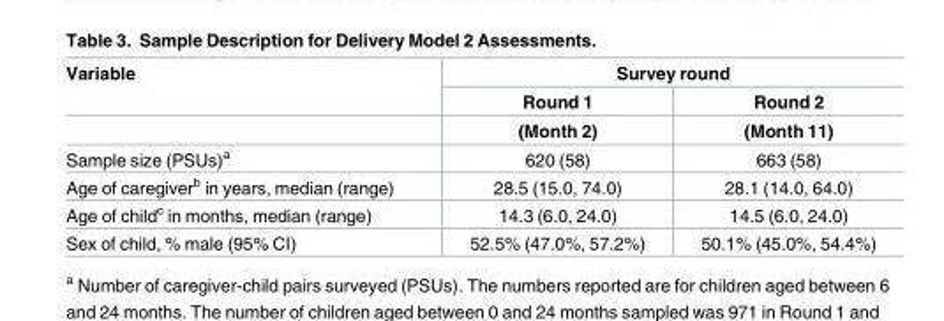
<table><thead><tr><td rowspan="3">Variable</td><td colspan="2">Survey round</td></tr><tr><td rowspan="2">Round 1 (Month 2)</td><td rowspan="2">Round 2 (Month 11)</td></tr><tr></tr></thead><tbody><tr><td>Sample size (PSUs)<sup>a</sup></td><td>620 (58)</td><td>663 (58)</td></tr><tr><td>Age of caregiver<sup>b</sup> in years, median (range)</td><td>28.5 (15.0, 74.0)</td><td>28.1 (14.0, 64.0)</td></tr><tr><td>Age of child<sup>c</sup> in months, median (range)</td><td>14.3 (6.0, 24.0)</td><td>14.5 (6.0, 24.0)</td></tr><tr><td>Sex of child, % male (95% CI)</td><td>52.5% (47.0%, 57.2%)</td><td>50.1% (45.0%, 54.4%)</td></tr></tbody></table>